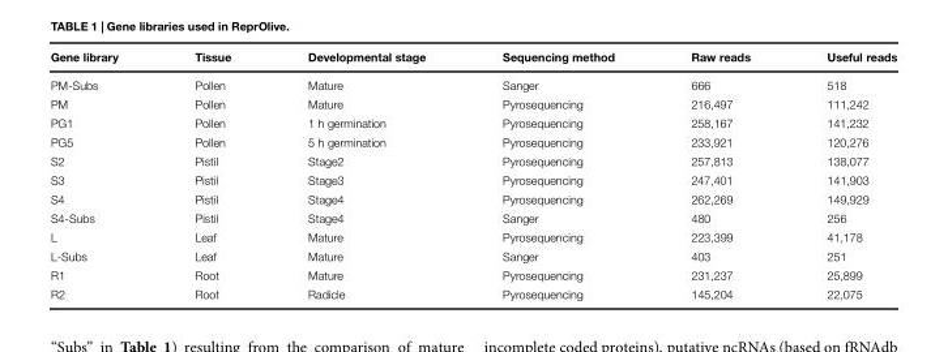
<table><thead><tr><td>Gene library</td><td>Tissue</td><td>Developmental stage</td><td>Sequencing method</td><td>Raw reads</td><td>Useful reads</td></tr></thead><tbody><tr><td>PM-Subs</td><td>Pollen</td><td>Mature</td><td>Sanger</td><td>666</td><td>518</td></tr><tr><td>PM</td><td>Pollen</td><td>Mature</td><td>Pyrosequencing</td><td>216,497</td><td>111,242</td></tr><tr><td>PG1</td><td>Pollen</td><td>1 h germination</td><td>Pyrosequencing</td><td>258,167</td><td>141,232</td></tr><tr><td>PG5</td><td>Pollen</td><td>5 h germination</td><td>Pyrosequencing</td><td>233,921</td><td>120,276</td></tr><tr><td>S2</td><td>Pistil</td><td>Stage2</td><td>Pyrosequencing</td><td>257,813</td><td>138,077</td></tr><tr><td>S3</td><td>Pistil</td><td>Stage3</td><td>Pyrosequencing</td><td>247,401</td><td>141,903</td></tr><tr><td>S4</td><td>Pistil</td><td>Stage4</td><td>Pyrosequencing</td><td>262,269</td><td>149,929</td></tr><tr><td>S4-Subs</td><td>Pistil</td><td>Stage4</td><td>Sanger</td><td>480</td><td>256</td></tr><tr><td>L</td><td>Leaf</td><td>Mature</td><td>Pyrosequencing</td><td>223,399</td><td>41,178</td></tr><tr><td>L-Subs</td><td>Leaf</td><td>Mature</td><td>Sanger</td><td>403</td><td>251</td></tr><tr><td>R1</td><td>Root</td><td>Mature</td><td>Pyrosequencing</td><td>231,237</td><td>25,899</td></tr><tr><td>R2</td><td>Root</td><td>Radicle</td><td>Pyrosequencing</td><td>145,204</td><td>22,075</td></tr></tbody></table>